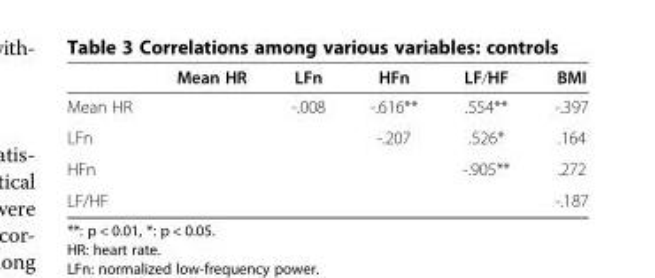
<table><thead><tr><td></td><td>Mean HR</td><td>LFn</td><td>HFn</td><td>LF/HF</td><td>BMI</td></tr></thead><tbody><tr><td>Mean HR</td><td></td><td>-.008</td><td>-.616**</td><td>.554**</td><td>-.397</td></tr><tr><td>LFn</td><td></td><td></td><td>-.207</td><td>.526*</td><td>.164</td></tr><tr><td>HFn</td><td></td><td></td><td></td><td>-.905**</td><td>.272</td></tr><tr><td>LF/HF</td><td></td><td></td><td></td><td></td><td>-.187</td></tr></tbody></table>